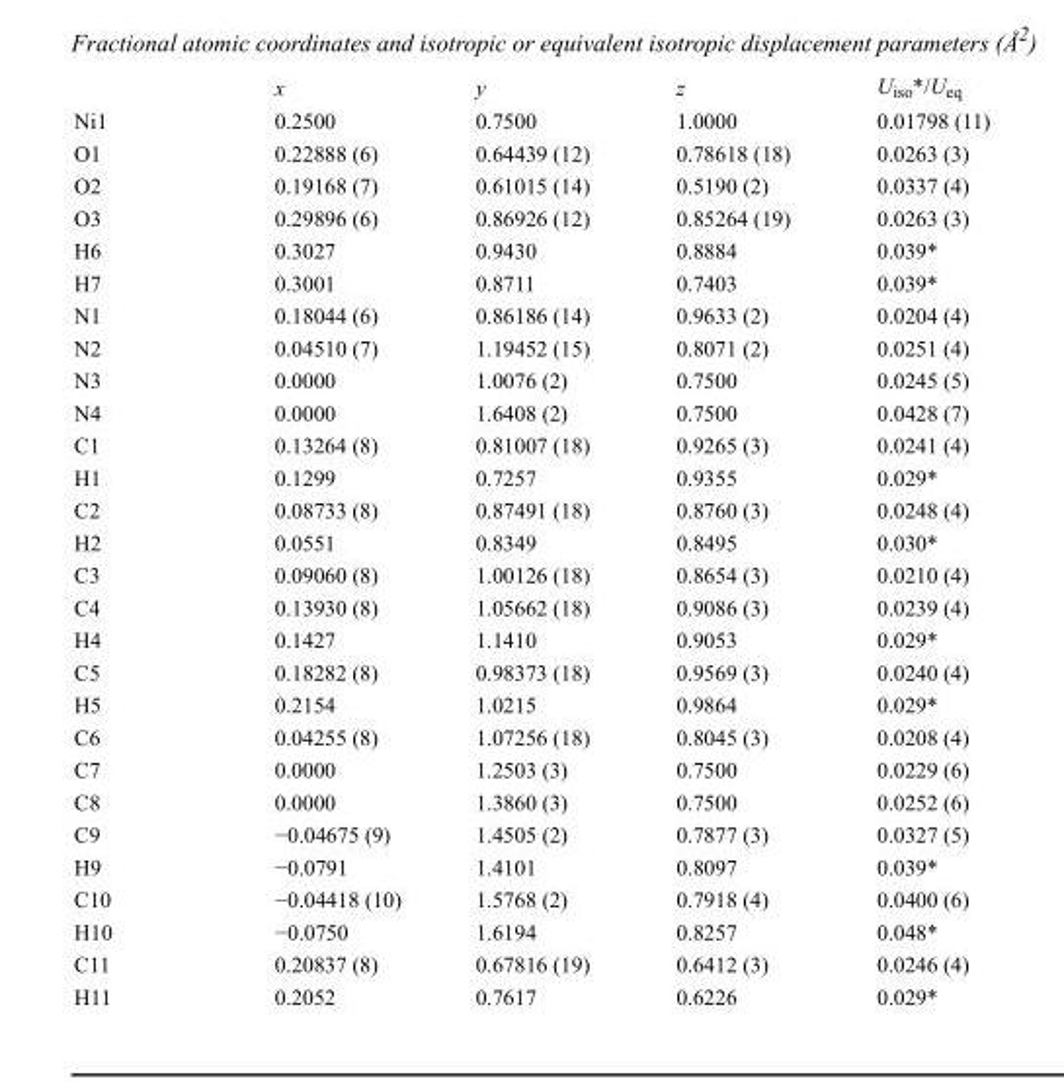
<table><thead><tr><td></td><td>x</td><td>y</td><td>z</td><td>U<sub>iso</sub>*/U<sub>eq</sub></td></tr></thead><tbody><tr><td>Ni1</td><td>0.2500</td><td>0.7500</td><td>1.0000</td><td>0.01798 (11)</td></tr><tr><td>O1</td><td>0.22888 (6)</td><td>0.64439 (12)</td><td>0.78618 (18)</td><td>0.0263 (3)</td></tr><tr><td>O2</td><td>0.19168 (7)</td><td>0.61015 (14)</td><td>0.5190 (2)</td><td>0.0337 (4)</td></tr><tr><td>O3</td><td>0.29896 (6)</td><td>0.86926 (12)</td><td>0.85264 (19)</td><td>0.0263 (3)</td></tr><tr><td>H6</td><td>0.3027</td><td>0.9430</td><td>0.8884</td><td>0.039*</td></tr><tr><td>H7</td><td>0.3001</td><td>0.8711</td><td>0.7403</td><td>0.039*</td></tr><tr><td>N1</td><td>0.18044 (6)</td><td>0.86186 (14)</td><td>0.9633 (2)</td><td>0.0204 (4)</td></tr><tr><td>N2</td><td>0.04510 (7)</td><td>1.19452 (15)</td><td>0.8071 (2)</td><td>0.0251 (4)</td></tr><tr><td>N3</td><td>0.0000</td><td>1.0076 (2)</td><td>0.7500</td><td>0.0245 (5)</td></tr><tr><td>N4</td><td>0.0000</td><td>1.6408 (2)</td><td>0.7500</td><td>0.0428 (7)</td></tr><tr><td>C1</td><td>0.13264 (8)</td><td>0.81007 (18)</td><td>0.9265 (3)</td><td>0.0241 (4)</td></tr><tr><td>H1</td><td>0.1299</td><td>0.7257</td><td>0.9355</td><td>0.029*</td></tr><tr><td>C2</td><td>0.08733 (8)</td><td>0.87491 (18)</td><td>0.8760 (3)</td><td>0.0248 (4)</td></tr><tr><td>H2</td><td>0.0551</td><td>0.8349</td><td>0.8495</td><td>0.030*</td></tr><tr><td>C3</td><td>0.09060 (8)</td><td>1.00126 (18)</td><td>0.8654 (3)</td><td>0.0210 (4)</td></tr><tr><td>C4</td><td>0.13930 (8)</td><td>1.05662 (18)</td><td>0.9086 (3)</td><td>0.0239 (4)</td></tr><tr><td>H4</td><td>0.1427</td><td>1.1410</td><td>0.9053</td><td>0.029*</td></tr><tr><td>C5</td><td>0.18282 (8)</td><td>0.98373 (18)</td><td>0.9569 (3)</td><td>0.0240 (4)</td></tr><tr><td>H5</td><td>0.2154</td><td>1.0215</td><td>0.9864</td><td>0.029*</td></tr><tr><td>C6</td><td>0.04255 (8)</td><td>1.07256 (18)</td><td>0.8045 (3)</td><td>0.0208 (4)</td></tr><tr><td>C7</td><td>0.0000</td><td>1.2503 (3)</td><td>0.7500</td><td>0.0229 (6)</td></tr><tr><td>C8</td><td>0.0000</td><td>1.3860 (3)</td><td>0.7500</td><td>0.0252 (6)</td></tr><tr><td>C9</td><td>−0.04675 (9)</td><td>1.4505 (2)</td><td>0.7877 (3)</td><td>0.0327 (5)</td></tr><tr><td>H9</td><td>−0.0791</td><td>1.4101</td><td>0.8097</td><td>0.039*</td></tr><tr><td>C10</td><td>−0.04418 (10)</td><td>1.5768 (2)</td><td>0.7918 (4)</td><td>0.0400 (6)</td></tr><tr><td>H10</td><td>−0.0750</td><td>1.6194</td><td>0.8257</td><td>0.048*</td></tr><tr><td>C11</td><td>0.20837 (8)</td><td>0.67816 (19)</td><td>0.6412 (3)</td><td>0.0246 (4)</td></tr><tr><td>H11</td><td>0.2052</td><td>0.7617</td><td>0.6226</td><td>0.029*</td></tr></tbody></table>